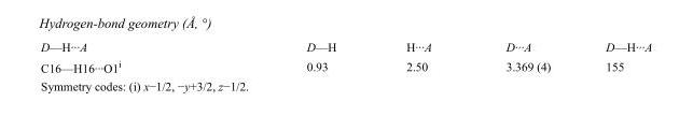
<table><tbody><tr><td>D—H···A</td><td>D—H</td><td>H···A</td><td>D···A</td><td>D—H···A</td></tr><tr><td>C16—H16···O1<sup>i</sup></td><td>0.93</td><td>2.50</td><td>3.369 (4)</td><td>155</td></tr></tbody></table>